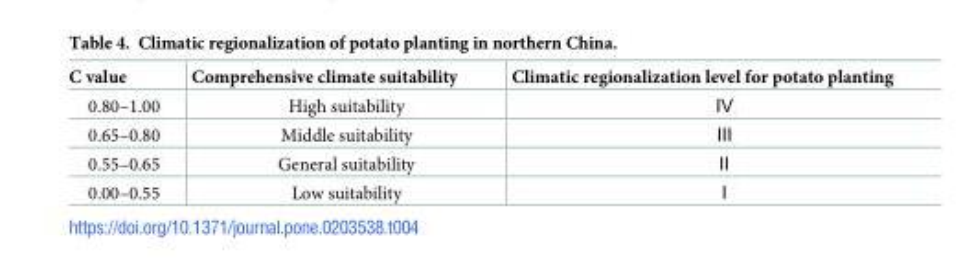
<table><thead><tr><td>C value</td><td>Comprehensive climate suitability</td><td>Climatic regionalization level for potato planting</td></tr></thead><tbody><tr><td>0.80–1.00</td><td>High suitability</td><td>Ⅳ</td></tr><tr><td>0.65–0.80</td><td>Middle suitability</td><td>Ⅲ</td></tr><tr><td>0.55–0.65</td><td>General suitability</td><td>Ⅱ</td></tr><tr><td>0.00–0.55</td><td>Low suitability</td><td>Ⅰ</td></tr></tbody></table>